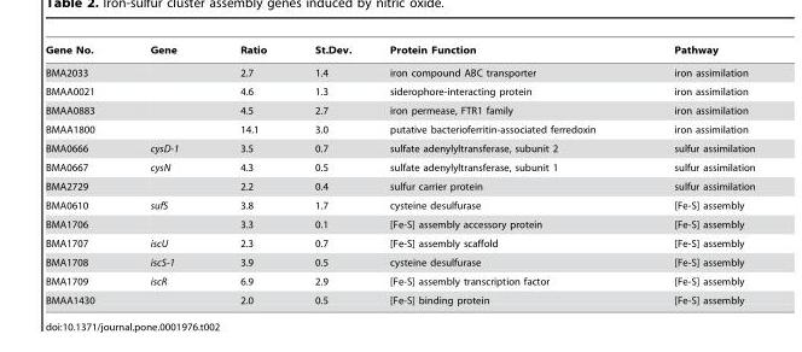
<table><thead><tr><td>Gene No.</td><td>Gene</td><td>Ratio</td><td>St.Dev.</td><td>Protein Function</td><td>Pathway</td></tr></thead><tbody><tr><td>BMA2033</td><td></td><td>2.7</td><td>1.4</td><td>iron compound ABC transporter</td><td>iron assimilation</td></tr><tr><td>BMAA0021</td><td></td><td>4.6</td><td>1.3</td><td>siderophore-interacting protein</td><td>iron assimilation</td></tr><tr><td>BMAA0883</td><td></td><td>4.5</td><td>2.7</td><td>iron permease, FTR1 family</td><td>iron assimilation</td></tr><tr><td>BMAA1800</td><td></td><td>14.1</td><td>3.0</td><td>putative bacterioferritin-associated ferredoxin</td><td>iron assimilation</td></tr><tr><td>BMA0666</td><td>cysD-1</td><td>3.5</td><td>0.7</td><td>sulfate adenylyltransferase, subunit 2</td><td>sulfur assimilation</td></tr><tr><td>BMA0667</td><td>cysN</td><td>4.3</td><td>0.5</td><td>sulfate adenylyltransferase, subunit 1</td><td>sulfur assimilation</td></tr><tr><td>BMA2729</td><td></td><td>2.2</td><td>0.4</td><td>sulfur carrier protein</td><td>sulfur assimilation</td></tr><tr><td>BMA0610</td><td>sufS</td><td>3.8</td><td>1.7</td><td>cysteine desulfurase</td><td>[Fe-S] assembly</td></tr><tr><td>BMA1706</td><td></td><td>3.3</td><td>0.1</td><td>[Fe-S] assembly accessory protein</td><td>[Fe-S] assembly</td></tr><tr><td>BMA1707</td><td>iscU</td><td>2.3</td><td>0.7</td><td>[Fe-S] assembly scaffold</td><td>[Fe-S] assembly</td></tr><tr><td>BMA1708</td><td>iscS-1</td><td>3.9</td><td>0.5</td><td>cysteine desulfurase</td><td>[Fe-S] assembly</td></tr><tr><td>BMA1709</td><td>iscR</td><td>6.9</td><td>2.9</td><td>[Fe-S] assembly transcription factor</td><td>[Fe-S] assembly</td></tr><tr><td>BMAA1430</td><td></td><td>2.0</td><td>0.5</td><td>[Fe-S] binding protein</td><td>[Fe-S] assembly</td></tr></tbody></table>